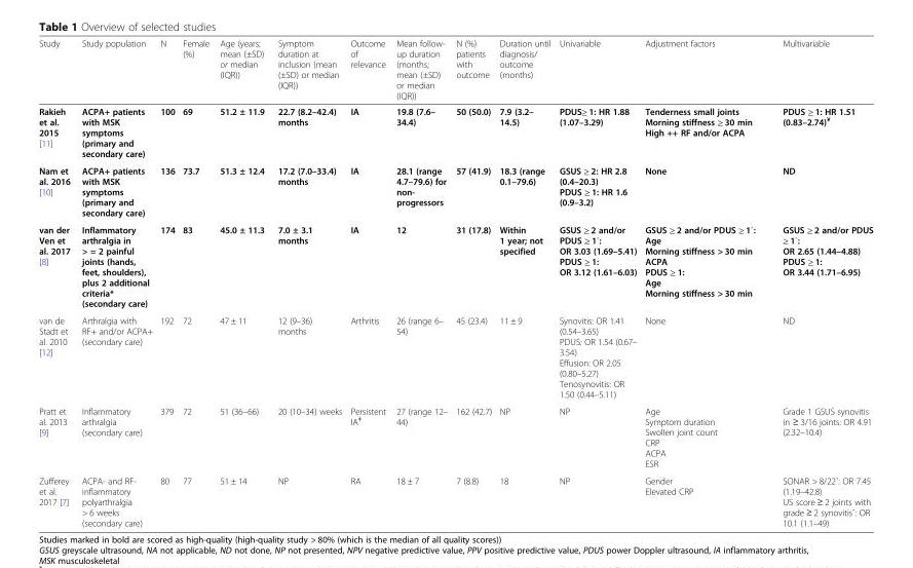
<table><thead><tr><td>Study</td><td>Study population</td><td>N</td><td>Female (%)</td><td>Age (years; mean (±SD) or median (IQR))</td><td>Symptom duration at inclusion (mean (±SD) or median (IQR))</td><td>Outcome of relevance</td><td>Mean follow- up duration (months; mean (±SD) or median (IQR))</td><td>N (%) patients with outcome</td><td>Duration until diagnosis/ outcome (months)</td><td>Univariable</td><td>Adjustment factors</td><td>Multivariable</td></tr></thead><tbody><tr><td>Rakieh et al. 2015 [11]</td><td>ACPA+ patients with MSK symptoms (primary and secondary care)</td><td>100</td><td>69</td><td>51.2 ± 11.9</td><td>22.7 (8.2–42.4) months</td><td>IA</td><td>19.8 (7.6– 34.4)</td><td>50 (50.0)</td><td>7.9 (3.2– 14.5)</td><td>PDUS≥ 1: HR 1.88 (1.07–3.29)</td><td>Tenderness small joints Morning stiffness ≥ 30 min High ++ RF and/or ACPA</td><td>PDUS ≥ 1: HR 1.51 (0.83–2.74)<sup>¥</sup></td></tr><tr><td>Nam et al. 2016 [10]</td><td>ACPA+ patients with MSK symptoms (primary and secondary care)</td><td>136</td><td>73.7</td><td>51.3 ± 12.4</td><td>17.2 (7.0–33.4) months</td><td>IA</td><td>28.1 (range 4.7–79.6) for non- progressors</td><td>57 (41.9)</td><td>18.3 (range 0.1–79.6)</td><td>GSUS ≥ 2: HR 2.8 (0.4–20.3) PDUS ≥ 1: HR 1.6 (0.9–3.2)</td><td>None</td><td>ND</td></tr><tr><td>van der Ven et al. 2017 [8]</td><td>Inflammatory arthralgia in &gt; = 2 painful joints (hands, feet, shoulders), plus 2 additional criteria* (secondary care)</td><td>174</td><td>83</td><td>45.0 ± 11.3</td><td>7.0 ± 3.1 months</td><td>IA</td><td>12</td><td>31 (17.8)</td><td>Within 1 year; not specified</td><td>GSUS ≥ 2 and/or PDUS ≥ 1<sup>⌃</sup>: OR 3.03 (1.69–5.41) PDUS ≥ 1: OR 3.12 (1.61–6.03)</td><td>GSUS ≥ 2 and/or PDUS ≥ 1<sup>⌃</sup>: Age Morning stiffness &gt; 30 min ACPA PDUS ≥ 1: Age Morning stiffness &gt; 30 min</td><td>GSUS ≥ 2 and/or PDUS ≥ 1<sup>⌃</sup>: OR 2.65 (1.44–4.88) PDUS ≥ 1: OR 3.44 (1.71–6.95)</td></tr><tr><td>van de Stadt et al. 2010 [12]</td><td>Arthralgia with RF+ and/or ACPA+ (secondary care)</td><td>192</td><td>72</td><td>47 ± 11</td><td>12 (9–36) months</td><td>Arthritis</td><td>26 (range 6– 54)</td><td>45 (23.4)</td><td>11 ± 9</td><td>Synovitis: OR 1.41 (0.54–3.65) PDUS: OR 1.54 (0.67– 3.54) Effusion: OR 2.05 (0.80–5.27) Tenosynovitis: OR 1.50 (0.44–5.11)</td><td>None</td><td>ND</td></tr><tr><td>Pratt et al. 2013 [9]</td><td>Inflammatory arthralgia (secondary care)</td><td>379</td><td>72</td><td>51 (36–66)</td><td>20 (10–34) weeks</td><td>Persistent IA<sup>ǂ</sup></td><td>27 (range 12– 44)</td><td>162 (42.7)</td><td>NP</td><td>NP</td><td>Age Symptom duration Swollen joint count CRP ACPA ESR</td><td>Grade 1 GSUS synovitis in ≥ 3/16 joints: OR 4.91 (2.32–10.4)</td></tr><tr><td>Zufferey et al. 2017 [7]</td><td>ACPA- and RF- inflammatory polyarthralgia &gt; 6 weeks (secondary care)</td><td>80</td><td>77</td><td>51 ± 14</td><td>NP</td><td>RA</td><td>18 ± 7</td><td>7 (8.8)</td><td>18</td><td>NP</td><td>Gender Elevated CRP</td><td>SONAR &gt; 8/22<sup>⌃</sup>: OR 7.45 (1.19–42.8) US score ≥ 2 joints with grade ≥ 2 synovitis<sup>⌃</sup>: OR 10.1 (1.1–49)</td></tr></tbody></table>